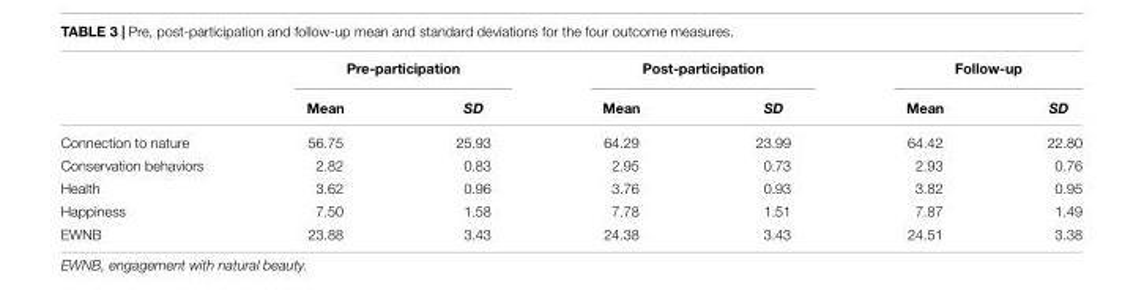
<table><thead><tr><td rowspan="2"></td><td colspan="2">Pre-participation</td><td colspan="2">Post-participation</td><td colspan="2">Follow-up</td></tr><tr><td>Mean</td><td>SD</td><td>Mean</td><td>SD</td><td>Mean</td><td>SD</td></tr></thead><tbody><tr><td>Connection to nature</td><td>56.75</td><td>25.93</td><td>64.29</td><td>23.99</td><td>64.42</td><td>22.80</td></tr><tr><td>Conservation behaviors</td><td>2.82</td><td>0.83</td><td>2.95</td><td>0.73</td><td>2.93</td><td>0.76</td></tr><tr><td>Health</td><td>3.62</td><td>0.96</td><td>3.76</td><td>0.93</td><td>3.82</td><td>0.95</td></tr><tr><td>Happiness</td><td>7.50</td><td>1.58</td><td>7.78</td><td>1.51</td><td>7.87</td><td>1.49</td></tr><tr><td>EWNB</td><td>23.88</td><td>3.43</td><td>24.38</td><td>3.43</td><td>24.51</td><td>3.38</td></tr></tbody></table>